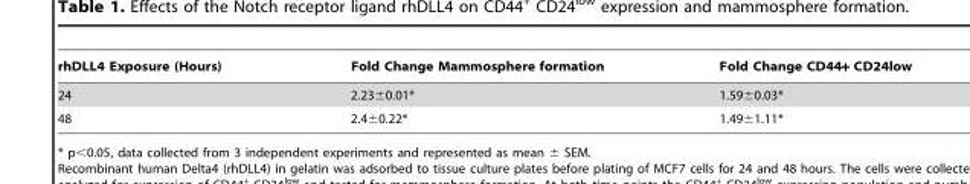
<table><thead><tr><td>rhDLL4 Exposure (Hours)</td><td>Fold Change Mammosphere formation</td><td>Fold Change CD44+ CD24low</td></tr></thead><tbody><tr><td>24</td><td>2.23±0.01*</td><td>1.59±0.03*</td></tr><tr><td>48</td><td>2.4±0.22*</td><td>1.49±1.11*</td></tr></tbody></table>